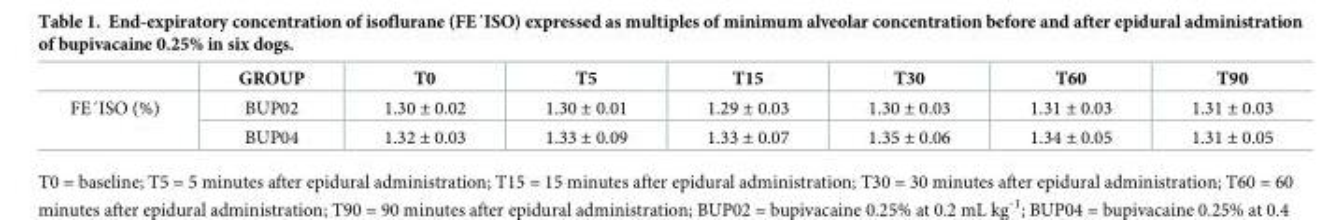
<table><thead><tr><td></td><td>GROUP</td><td>T0</td><td>T5</td><td>T15</td><td>T30</td><td>T60</td><td>T90</td></tr></thead><tbody><tr><td rowspan="2">FE´ISO (%)</td><td>BUP02</td><td>1.30 ± 0.02</td><td>1.30 ± 0.01</td><td>1.29 ± 0.03</td><td>1.30 ± 0.03</td><td>1.31 ± 0.03</td><td>1.31 ± 0.03</td></tr><tr><td>BUP04</td><td>1.32 ± 0.03</td><td>1.33 ± 0.09</td><td>1.33 ± 0.07</td><td>1.35 ± 0.06</td><td>1.34 ± 0.05</td><td>1.31 ± 0.05</td></tr></tbody></table>